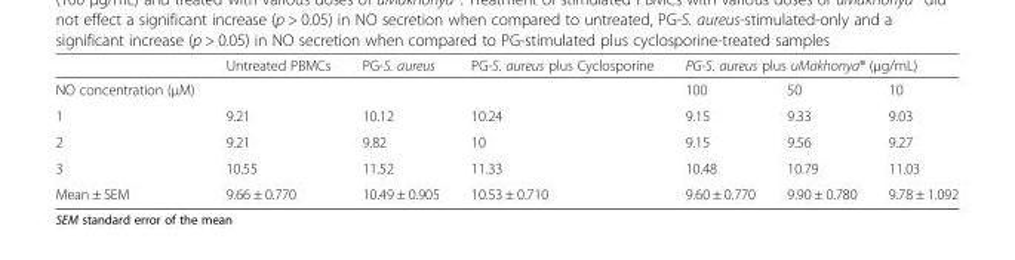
<table><thead><tr><td rowspan="2">NO concentration (μM)</td><td rowspan="2">Untreated PBMCs</td><td rowspan="2">PG-S. aureus</td><td rowspan="2">PG-S. aureus plus Cyclosporine</td><td colspan="3">PG-S. aureus plus uMakhonya® (μg/mL)</td></tr><tr><td>100</td><td>50</td><td>10</td></tr></thead><tbody><tr><td>1</td><td>9.21</td><td>10.12</td><td>10.24</td><td>9.15</td><td>9.33</td><td>9.03</td></tr><tr><td>2</td><td>9.21</td><td>9.82</td><td>10</td><td>9.15</td><td>9.56</td><td>9.27</td></tr><tr><td>3</td><td>10.55</td><td>11.52</td><td>11.33</td><td>10.48</td><td>10.79</td><td>11.03</td></tr><tr><td>Mean ± SEM</td><td>9.66 ± 0.770</td><td>10.49 ± 0.905</td><td>10.53 ± 0.710</td><td>9.60 ± 0.770</td><td>9.90 ± 0.780</td><td>9.78 ± 1.092</td></tr></tbody></table>